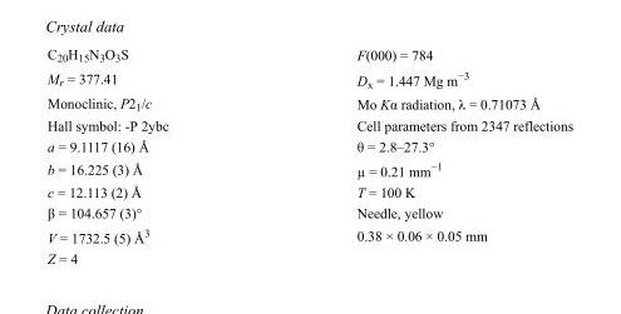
<table><tbody><tr><td>C<sub>20</sub>H<sub>15</sub>N<sub>3</sub>O<sub>3</sub>S</td><td>F(000) = 784</td></tr><tr><td>M<sub>r</sub> = 377.41</td><td>D<sub>x</sub> = 1.447 Mg m<sup>−3</sup></td></tr><tr><td>Monoclinic, P2<sub>1</sub>/c</td><td>Mo Kα radiation, λ = 0.71073 Å</td></tr><tr><td>Hall symbol: -P 2ybc</td><td>Cell parameters from 2347 reflections</td></tr><tr><td>a = 9.1117 (16) Å</td><td>θ = 2.8–27.3°</td></tr><tr><td>b = 16.225 (3) Å</td><td>µ = 0.21 mm<sup>−1</sup></td></tr><tr><td>c = 12.113 (2) Å</td><td>T = 100 K</td></tr><tr><td>β = 104.657 (3)°</td><td>Needle, yellow</td></tr><tr><td>V = 1732.5 (5) Å<sup>3</sup></td><td>0.38 × 0.06 × 0.05 mm</td></tr><tr><td>Z = 4</td><td></td></tr></tbody></table>